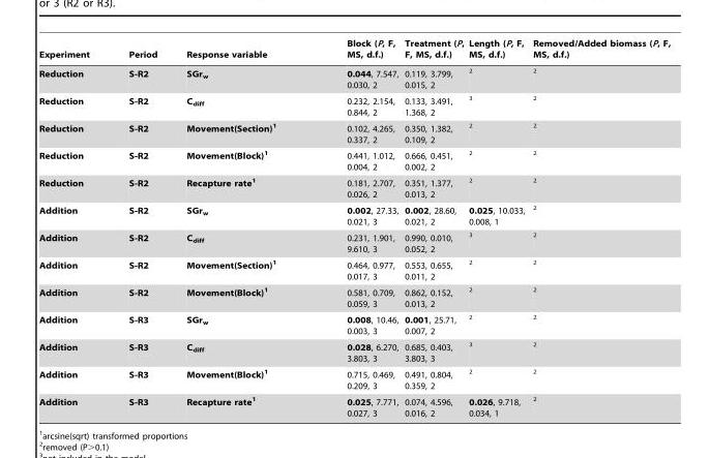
<table><thead><tr><td>Experiment</td><td>Period</td><td>Response variable</td><td>Block (P, F, MS, d.f.)</td><td>Treatment (P, F, MS, d.f.)</td><td>Length (P, F, MS, d.f.)</td><td>Removed/Added biomass (P, F, MS, d.f.)</td></tr></thead><tbody><tr><td>Reduction</td><td>S-R2</td><td>SGr<sub>w</sub></td><td>0.044, 7.547, 0.030, 2</td><td>0.119, 3.799, 0.015, 2</td><td>2</td><td>2</td></tr><tr><td>Reduction</td><td>S-R2</td><td>C<sub>diff</sub></td><td>0.232, 2.154, 0.844, 2</td><td>0.133, 3.491, 1.368, 2</td><td>3</td><td>2</td></tr><tr><td>Reduction</td><td>S-R2</td><td>Movement(Section)1</td><td>0.102, 4.265, 0.337, 2</td><td>0.350, 1.382, 0.109, 2</td><td>2</td><td>2</td></tr><tr><td>Reduction</td><td>S-R2</td><td>Movement(Block)1</td><td>0.441, 1.012, 0.004, 2</td><td>0.666, 0.451, 0.002, 2</td><td>2</td><td>2</td></tr><tr><td>Reduction</td><td>S-R2</td><td>Recapture rate1</td><td>0.181, 2.707, 0.026, 2</td><td>0.351, 1.377, 0.013, 2</td><td>2</td><td>2</td></tr><tr><td>Addition</td><td>S-R2</td><td>SGr<sub>w</sub></td><td>0.002, 27.33, 0.021, 3</td><td>0.002, 28.60, 0.021, 2</td><td>0.025, 10.033, 0.008, 1</td><td>2</td></tr><tr><td>Addition</td><td>S-R2</td><td>C<sub>diff</sub></td><td>0.231, 1.901, 9.610, 3</td><td>0.990, 0.010, 0.052, 2</td><td>3</td><td>2</td></tr><tr><td>Addition</td><td>S-R2</td><td>Movement(Section)1</td><td>0.464, 0.977, 0.017, 3</td><td>0.553, 0.655, 0.011, 2</td><td>2</td><td>2</td></tr><tr><td>Addition</td><td>S-R2</td><td>Movement(Block)1</td><td>0.581, 0.709, 0.059, 3</td><td>0.862, 0.152, 0.013, 2</td><td>2</td><td>2</td></tr><tr><td>Addition</td><td>S-R3</td><td>SGr<sub>w</sub></td><td>0.008, 10.46, 0.003, 3</td><td>0.001, 25.71, 0.007, 2</td><td>2</td><td>2</td></tr><tr><td>Addition</td><td>S-R3</td><td>C<sub>diff</sub></td><td>0.028, 6.270, 3.803, 3</td><td>0.685, 0.403, 3.803, 3</td><td>3</td><td>2</td></tr><tr><td>Addition</td><td>S-R3</td><td>Movement(Block)1</td><td>0.715, 0.469, 0.209, 3</td><td>0.491, 0.804, 0.359, 2</td><td>2</td><td>2</td></tr><tr><td>Addition</td><td>S-R3</td><td>Recapture rate1</td><td>0.025, 7.771, 0.027, 3</td><td>0.074, 4.596, 0.016, 2</td><td>0.026, 9.718, 0.034, 1</td><td>2</td></tr></tbody></table>